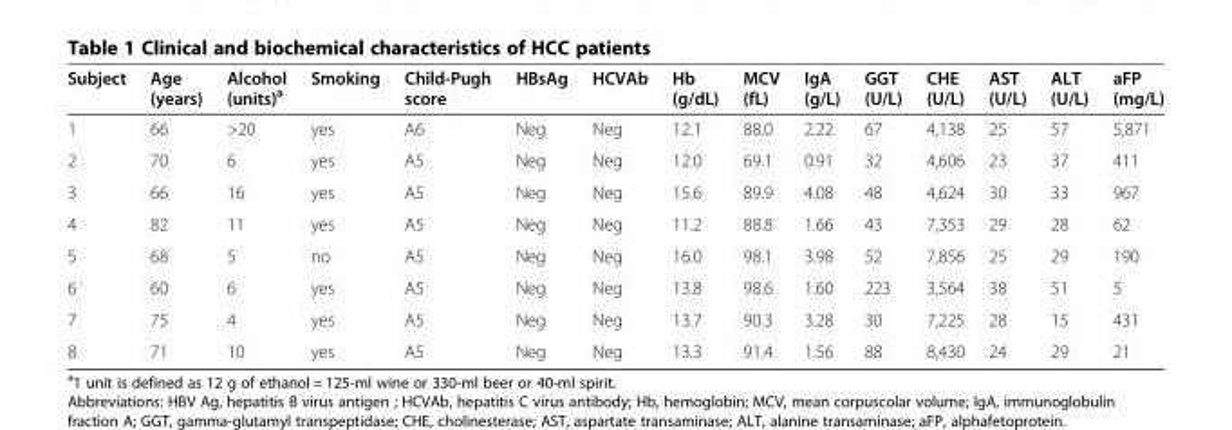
<table><thead><tr><td>Subject</td><td>Age (years)</td><td>Alcohol (units)<sup>a</sup></td><td>Smoking</td><td>Child-Pugh score</td><td>HBsAg</td><td>HCVAb</td><td>Hb (g/dL)</td><td>MCV (fL)</td><td>IgA (g/L)</td><td>GGT (U/L)</td><td>CHE (U/L)</td><td>AST (U/L)</td><td>ALT (U/L)</td><td>aFP (mg/L)</td></tr></thead><tbody><tr><td>1</td><td>66</td><td>&gt;20</td><td>yes</td><td>A6</td><td>Neg</td><td>Neg</td><td>12.1</td><td>88.0</td><td>2.22</td><td>67</td><td>4,138</td><td>25</td><td>57</td><td>5,871</td></tr><tr><td>2</td><td>70</td><td>6</td><td>yes</td><td>A5</td><td>Neg</td><td>Neg</td><td>12.0</td><td>69.1</td><td>0.91</td><td>32</td><td>4,606</td><td>23</td><td>37</td><td>411</td></tr><tr><td>3</td><td>66</td><td>16</td><td>yes</td><td>A5</td><td>Neg</td><td>Neg</td><td>15.6</td><td>89.9</td><td>4.08</td><td>48</td><td>4,624</td><td>30</td><td>33</td><td>967</td></tr><tr><td>4</td><td>82</td><td>11</td><td>yes</td><td>A5</td><td>Neg</td><td>Neg</td><td>11.2</td><td>88.8</td><td>1.66</td><td>43</td><td>7,353</td><td>29</td><td>28</td><td>62</td></tr><tr><td>5</td><td>68</td><td>5</td><td>no</td><td>A5</td><td>Neg</td><td>Neg</td><td>16.0</td><td>98.1</td><td>3.98</td><td>52</td><td>7,856</td><td>25</td><td>29</td><td>190</td></tr><tr><td>6</td><td>60</td><td>6</td><td>yes</td><td>A5</td><td>Neg</td><td>Neg</td><td>13.8</td><td>98.6</td><td>1.60</td><td>223</td><td>3,564</td><td>38</td><td>51</td><td>5</td></tr><tr><td>7</td><td>75</td><td>4</td><td>yes</td><td>A5</td><td>Neg</td><td>Neg</td><td>13.7</td><td>90.3</td><td>3.28</td><td>30</td><td>7,225</td><td>28</td><td>15</td><td>431</td></tr><tr><td>8</td><td>71</td><td>10</td><td>yes</td><td>A5</td><td>Neg</td><td>Neg</td><td>13.3</td><td>91.4</td><td>1.56</td><td>88</td><td>8,430</td><td>24</td><td>29</td><td>21</td></tr></tbody></table>